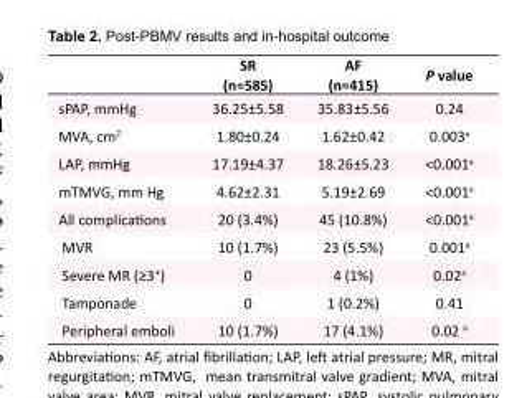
<table><thead><tr><td></td><td>SR (n=585)</td><td>AF (n=415)</td><td>P value</td></tr></thead><tbody><tr><td>sPAP, mmHg</td><td>36.25±5.58</td><td>35.83±5.56</td><td>0.24</td></tr><tr><td>MVA, cm<sup>2</sup></td><td>1.80±0.24</td><td>1.62±0.42</td><td>0.003<sup>a</sup></td></tr><tr><td>LAP, mmHg</td><td>17.19±4.37</td><td>18.26±5.23</td><td>&lt;0.001<sup>a</sup></td></tr><tr><td>mTMVG, mm Hg</td><td>4.62±2.31</td><td>5.19±2.69</td><td>&lt;0.001<sup>a</sup></td></tr><tr><td>All complications</td><td>20 (3.4%)</td><td>45 (10.8%)</td><td>&lt;0.001<sup>a</sup></td></tr><tr><td>MVR</td><td>10 (1.7%)</td><td>23 (5.5%)</td><td>0.001<sup>a</sup></td></tr><tr><td>Severe MR (≥3⁺)</td><td>0</td><td>4 (1%)</td><td>0.02<sup>a</sup></td></tr><tr><td>Tamponade</td><td>0</td><td>1 (0.2%)</td><td>0.41</td></tr><tr><td>Peripheral emboli</td><td>10 (1.7%)</td><td>17 (4.1%)</td><td>0.02 <sup>a</sup></td></tr></tbody></table>